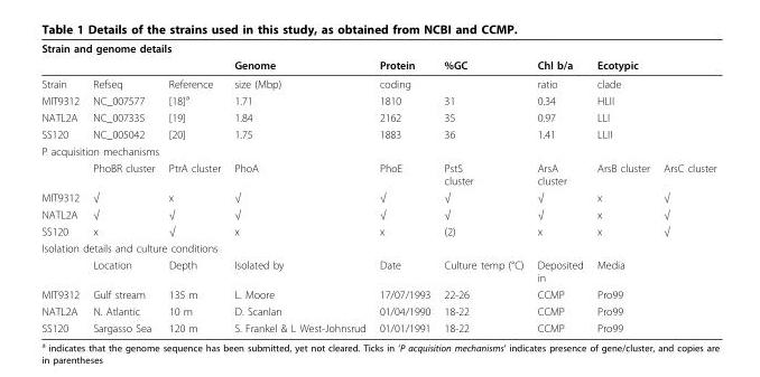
<table><thead><tr><td colspan="9">Strain and genome details</td></tr><tr><td></td><td></td><td></td><td>Genome</td><td>Protein</td><td>%GC</td><td>Chl b/a</td><td colspan="2">Ecotypic</td></tr></thead><tbody><tr><td>Strain</td><td>Refseq</td><td>Reference</td><td>size (Mbp)</td><td>coding</td><td></td><td>ratio</td><td colspan="2">clade</td></tr><tr><td>MIT9312</td><td>NC_007577</td><td>[18]<sup>a</sup></td><td>1.71</td><td>1810</td><td>31</td><td>0.34</td><td colspan="2">HLII</td></tr><tr><td>NATL2A</td><td>NC_007335</td><td>[19]</td><td>1.84</td><td>2162</td><td>35</td><td>0.97</td><td colspan="2">LLI</td></tr><tr><td>SS120</td><td>NC_005042</td><td>[20]</td><td>1.75</td><td>1883</td><td>36</td><td>1.41</td><td colspan="2">LLII</td></tr><tr><td colspan="9">P acquisition mechanisms</td></tr><tr><td></td><td>PhoBR cluster</td><td>PtrA cluster</td><td>PhoA</td><td>PhoE</td><td>PstS cluster</td><td>ArsA cluster</td><td>ArsB cluster</td><td>ArsC cluster</td></tr><tr><td>MIT9312</td><td>√</td><td>x</td><td>√</td><td>√</td><td>√</td><td>√</td><td>x</td><td>√</td></tr><tr><td>NATL2A</td><td>√</td><td>√</td><td>√</td><td>√</td><td>√</td><td>√</td><td>x</td><td>√</td></tr><tr><td>SS120</td><td>x</td><td>√</td><td>x</td><td>x</td><td>(2)</td><td>x</td><td>x</td><td>√</td></tr><tr><td colspan="9">Isolation details and culture conditions</td></tr><tr><td></td><td>Location</td><td>Depth</td><td>Isolated by</td><td>Date</td><td>Culture temp (°C)</td><td>Deposited in</td><td colspan="2">Media</td></tr><tr><td>MIT9312</td><td>Gulf stream</td><td>135 m</td><td>L. Moore</td><td>17/07/1993</td><td>22-26</td><td>CCMP</td><td colspan="2">Pro99</td></tr><tr><td>NATL2A</td><td>N. Atlantic</td><td>10 m</td><td>D. Scanlan</td><td>01/04/1990</td><td>18-22</td><td>CCMP</td><td colspan="2">Pro99</td></tr><tr><td>SS120</td><td>Sargasso Sea</td><td>120 m</td><td>S. Frankel &amp; L West-Johnsrud</td><td>01/01/1991</td><td>18-22</td><td>CCMP</td><td colspan="2">Pro99</td></tr></tbody></table>